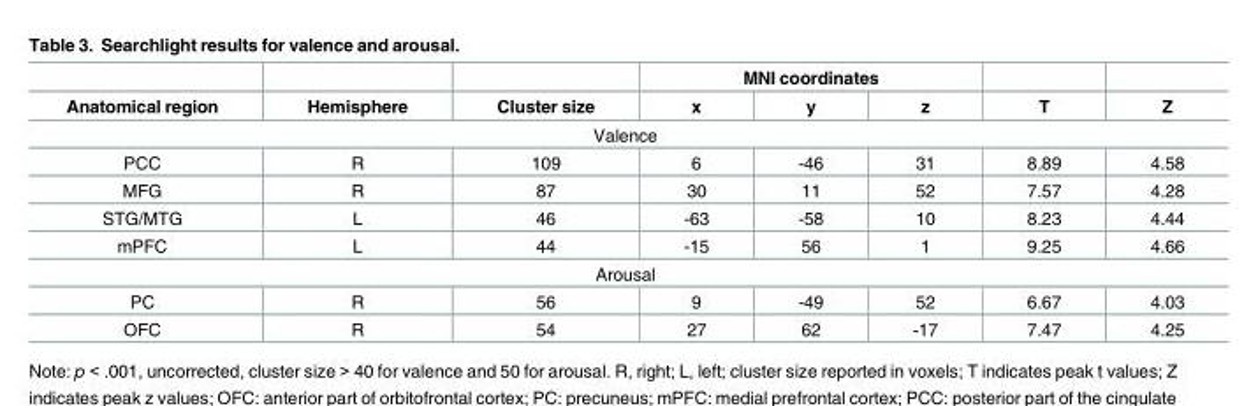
<table><thead><tr><td rowspan="2">Anatomical region</td><td rowspan="2">Hemisphere</td><td rowspan="2">Cluster size</td><td colspan="3">MNI coordinates</td><td rowspan="2">T</td><td rowspan="2">Z</td></tr><tr><td>x</td><td>y</td><td>z</td></tr></thead><tbody><tr><td colspan="8">Valence</td></tr><tr><td>PCC</td><td>R</td><td>109</td><td>6</td><td>-46</td><td>31</td><td>8.89</td><td>4.58</td></tr><tr><td>MFG</td><td>R</td><td>87</td><td>30</td><td>11</td><td>52</td><td>7.57</td><td>4.28</td></tr><tr><td>STG/MTG</td><td>L</td><td>46</td><td>-63</td><td>-58</td><td>10</td><td>8.23</td><td>4.44</td></tr><tr><td>mPFC</td><td>L</td><td>44</td><td>-15</td><td>56</td><td>1</td><td>9.25</td><td>4.66</td></tr><tr><td colspan="8">Arousal</td></tr><tr><td>PC</td><td>R</td><td>56</td><td>9</td><td>-49</td><td>52</td><td>6.67</td><td>4.03</td></tr><tr><td>OFC</td><td>R</td><td>54</td><td>27</td><td>62</td><td>-17</td><td>7.47</td><td>4.25</td></tr></tbody></table>